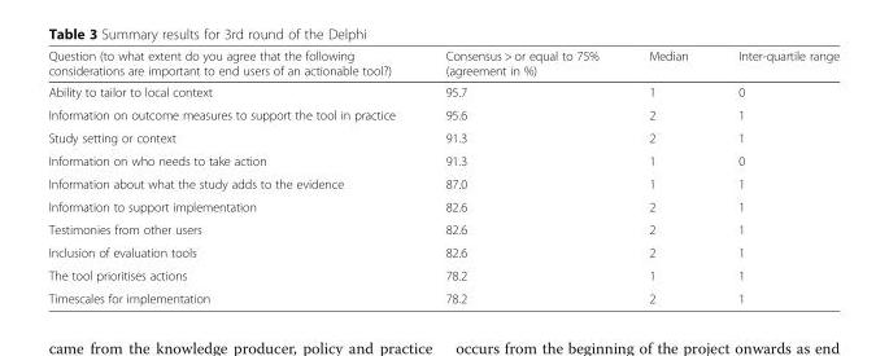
<table><thead><tr><td>Question (to what extent do you agree that the following considerations are important to end users of an actionable tool?)</td><td>Consensus &gt; or equal to 75% (agreement in %)</td><td>Median</td><td>Inter-quartile range</td></tr></thead><tbody><tr><td>Ability to tailor to local context</td><td>95.7</td><td>1</td><td>0</td></tr><tr><td>Information on outcome measures to support the tool in practice</td><td>95.6</td><td>2</td><td>1</td></tr><tr><td>Study setting or context</td><td>91.3</td><td>2</td><td>1</td></tr><tr><td>Information on who needs to take action</td><td>91.3</td><td>1</td><td>0</td></tr><tr><td>Information about what the study adds to the evidence</td><td>87.0</td><td>1</td><td>1</td></tr><tr><td>Information to support implementation</td><td>82.6</td><td>2</td><td>1</td></tr><tr><td>Testimonies from other users</td><td>82.6</td><td>2</td><td>1</td></tr><tr><td>Inclusion of evaluation tools</td><td>82.6</td><td>2</td><td>1</td></tr><tr><td>The tool prioritises actions</td><td>78.2</td><td>1</td><td>1</td></tr><tr><td>Timescales for implementation</td><td>78.2</td><td>2</td><td>1</td></tr></tbody></table>